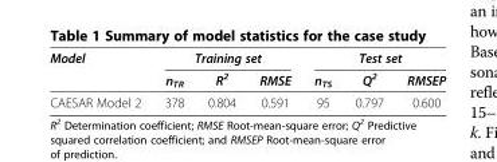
<table><thead><tr><td rowspan="2">Model</td><td colspan="3">Training set</td><td colspan="3">Test set</td></tr><tr><td>n<sub>TR</sub></td><td>R<sup>2</sup></td><td>RMSE</td><td>n<sub>TS</sub></td><td>Q<sup>2</sup></td><td>RMSEP</td></tr></thead><tbody><tr><td>CAESAR Model 2</td><td>378</td><td>0.804</td><td>0.591</td><td>95</td><td>0.797</td><td>0.600</td></tr></tbody></table>